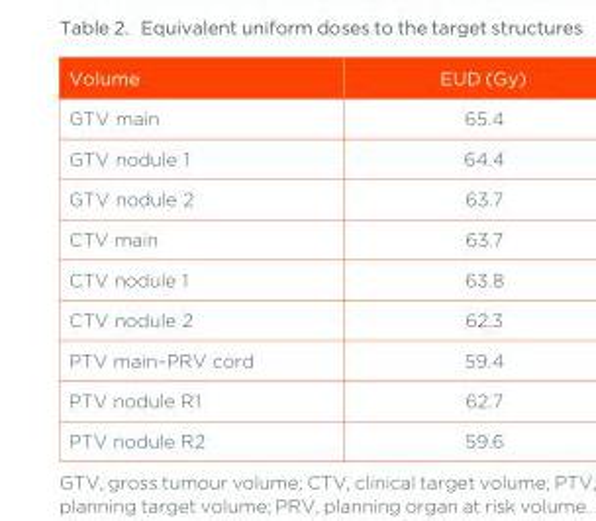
<table><thead><tr><td>Volume</td><td>EUD (Gy)</td></tr></thead><tbody><tr><td>GTV main</td><td>65.4</td></tr><tr><td>GTV nodule 1</td><td>64.4</td></tr><tr><td>GTV nodule 2</td><td>63.7</td></tr><tr><td>CTV main</td><td>63.7</td></tr><tr><td>CTV nodule 1</td><td>63.8</td></tr><tr><td>CTV nodule 2</td><td>62.3</td></tr><tr><td>PTV main–PRV cord</td><td>59.4</td></tr><tr><td>PTV nodule R1</td><td>62.7</td></tr><tr><td>PTV nodule R2</td><td>59.6</td></tr></tbody></table>